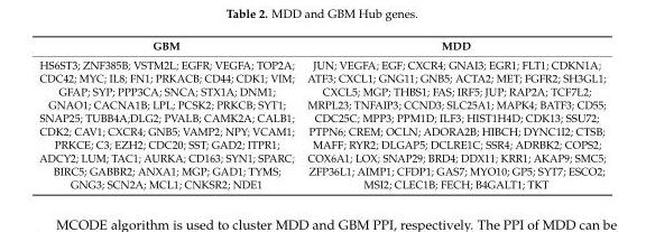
<table><thead><tr><td>GBM</td><td>MDD</td></tr></thead><tbody><tr><td>HS6ST3; ZNF385B; VSTM2L; EGFR; VEGFA; TOP2A; CDC42; MYC; IL8; FN1; PRKACB; CD44; CDK1; VIM; GFAP; SYP; PPP3CA; SNCA; STX1A; DNM1; GNAO1; CACNA1B; LPL; PCSK2; PRKCB; SYT1; SNAP25; TUBB4A;DLG2; PVALB; CAMK2A; CALB1; CDK2; CAV1; CXCR4; GNB5; VAMP2; NPY; VCAM1; PRKCE; C3; EZH2; CDC20; SST; GAD2; ITPR1; ADCY2; LUM; TAC1; AURKA; CD163; SYN1; SPARC; BIRC5; GABBR2; ANXA1; MGP; GAD1; TYMS; GNG3; SCN2A; MCL1; CNKSR2; NDE1</td><td>JUN; VEGFA; EGF; CXCR4; GNAI3; EGR1; FLT1; CDKN1A; ATF3; CXCL1; GNG11; GNB5; ACTA2; MET; FGFR2; SH3GL1; CXCL5; MGP; THBS1; FAS; IRF5; JUP; RAP2A; TCF7L2; MRPL23; TNFAIP3; CCND3; SLC25A1; MAPK4; BATF3; CD55; CDC25C; MPP3; PPM1D; ILF3; HIST1H4D; CDK13; SSU72; PTPN6; CREM; OCLN; ADORA2B; HIBCH; DYNC1I2; CTSB; MAFF; RYR2; DLGAP5; DCLRE1C; SSR4; ADRBK2; COPS2; COX6A1; LOX; SNAP29; BRD4; DDX11; KRR1; AKAP9; SMC5; ZFP36L1; AIMP1; CFDP1; GAS7; MYO10; GP5; SYT7; ESCO2; MSI2; CLEC1B; FECH; B4GALT1; TKT</td></tr></tbody></table>